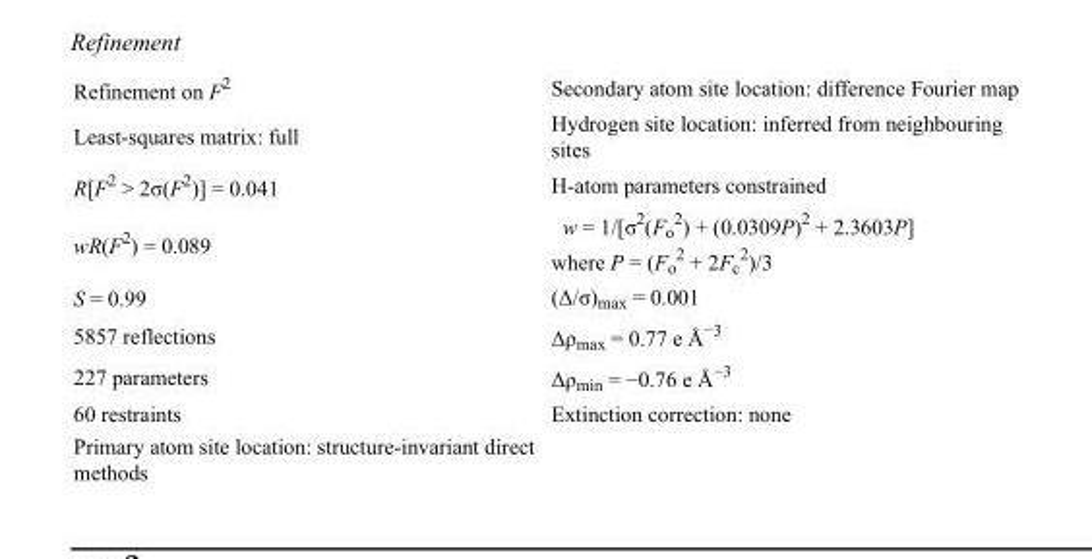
<table><tbody><tr><td>Refinement on F<sup>2</sup></td><td>Secondary atom site location: difference Fourier map</td></tr><tr><td>Least-squares matrix: full</td><td>Hydrogen site location: inferred from neighbouring sites</td></tr><tr><td>R[F<sup>2</sup> &gt; 2σ(F<sup>2</sup>)] = 0.041</td><td>H-atom parameters constrained</td></tr><tr><td>wR(F<sup>2</sup>) = 0.089</td><td>w = 1/[σ<sup>2</sup>(F<sub>o</sub> <sup>2</sup>) + (0.0309P)<sup>2</sup> + 2.3603P] where P = (F<sub>o</sub> <sup>2</sup> + 2F<sub>c</sub> <sup>2</sup>)/3</td></tr><tr><td>S = 0.99</td><td>(Δ/σ)<sub>max</sub> = 0.001</td></tr><tr><td>5857 reflections</td><td>Δρ<sub>max</sub> = 0.77 e Å<sup>−3</sup></td></tr><tr><td>227 parameters</td><td>Δρ<sub>min</sub> = −0.76 e Å<sup>−3</sup></td></tr><tr><td>60 restraints</td><td>Extinction correction: none</td></tr><tr><td>Primary atom site location: structure-invariant direct methods</td><td></td></tr></tbody></table>